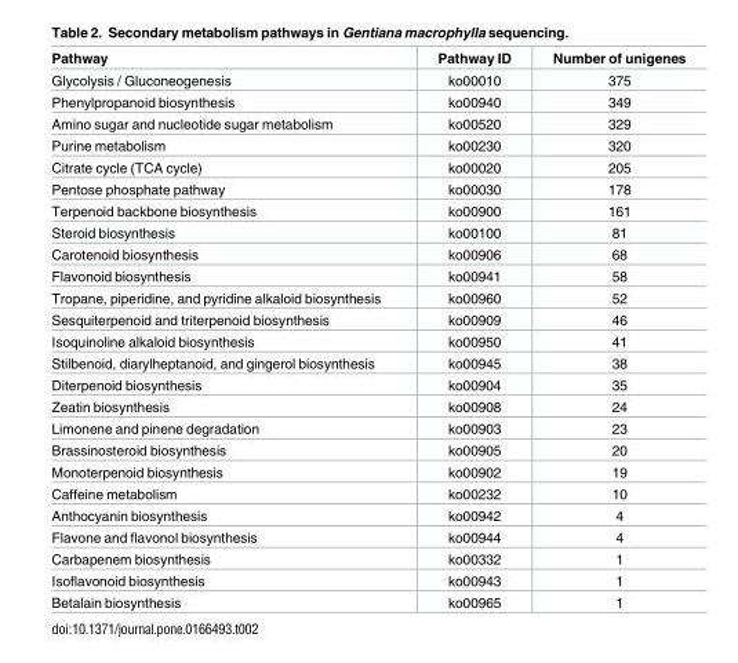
<table><thead><tr><td>Pathway</td><td>Pathway ID</td><td>Number of unigenes</td></tr></thead><tbody><tr><td>Glycolysis / Gluconeogenesis</td><td>ko00010</td><td>375</td></tr><tr><td>Phenylpropanoid biosynthesis</td><td>ko00940</td><td>349</td></tr><tr><td>Amino sugar and nucleotide sugar metabolism</td><td>ko00520</td><td>329</td></tr><tr><td>Purine metabolism</td><td>ko00230</td><td>320</td></tr><tr><td>Citrate cycle (TCA cycle)</td><td>ko00020</td><td>205</td></tr><tr><td>Pentose phosphate pathway</td><td>ko00030</td><td>178</td></tr><tr><td>Terpenoid backbone biosynthesis</td><td>ko00900</td><td>161</td></tr><tr><td>Steroid biosynthesis</td><td>ko00100</td><td>81</td></tr><tr><td>Carotenoid biosynthesis</td><td>ko00906</td><td>68</td></tr><tr><td>Flavonoid biosynthesis</td><td>ko00941</td><td>58</td></tr><tr><td>Tropane, piperidine, and pyridine alkaloid biosynthesis</td><td>ko00960</td><td>52</td></tr><tr><td>Sesquiterpenoid and triterpenoid biosynthesis</td><td>ko00909</td><td>46</td></tr><tr><td>Isoquinoline alkaloid biosynthesis</td><td>ko00950</td><td>41</td></tr><tr><td>Stilbenoid, diarylheptanoid, and gingerol biosynthesis</td><td>ko00945</td><td>38</td></tr><tr><td>Diterpenoid biosynthesis</td><td>ko00904</td><td>35</td></tr><tr><td>Zeatin biosynthesis</td><td>ko00908</td><td>24</td></tr><tr><td>Limonene and pinene degradation</td><td>ko00903</td><td>23</td></tr><tr><td>Brassinosteroid biosynthesis</td><td>ko00905</td><td>20</td></tr><tr><td>Monoterpenoid biosynthesis</td><td>ko00902</td><td>19</td></tr><tr><td>Caffeine metabolism</td><td>ko00232</td><td>10</td></tr><tr><td>Anthocyanin biosynthesis</td><td>ko00942</td><td>4</td></tr><tr><td>Flavone and flavonol biosynthesis</td><td>ko00944</td><td>4</td></tr><tr><td>Carbapenem biosynthesis</td><td>ko00332</td><td>1</td></tr><tr><td>Isoflavonoid biosynthesis</td><td>ko00943</td><td>1</td></tr><tr><td>Betalain biosynthesis</td><td>ko00965</td><td>1</td></tr></tbody></table>